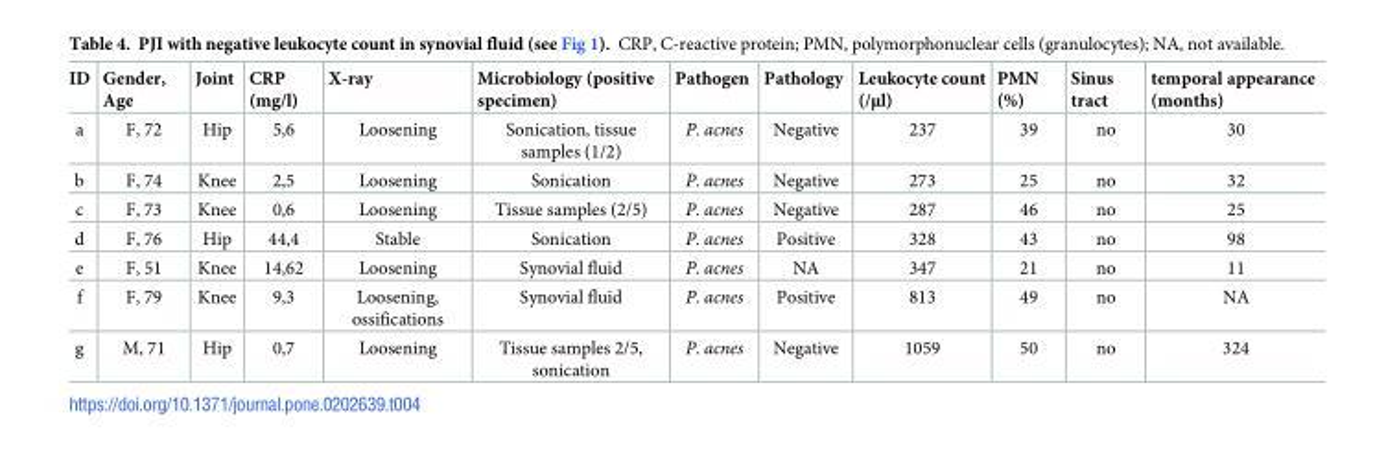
<table><thead><tr><td>ID</td><td>Gender, Age</td><td>Joint</td><td>CRP (mg/l)</td><td>X-ray</td><td>Microbiology (positive specimen)</td><td>Pathogen</td><td>Pathology</td><td>Leukocyte count (/μl)</td><td>PMN (%)</td><td>Sinus tract</td><td>temporal appearance (months)</td></tr></thead><tbody><tr><td>a</td><td>F, 72</td><td>Hip</td><td>5,6</td><td>Loosening</td><td>Sonication, tissue samples (1/2)</td><td>P. acnes</td><td>Negative</td><td>237</td><td>39</td><td>no</td><td>30</td></tr><tr><td>b</td><td>F, 74</td><td>Knee</td><td>2,5</td><td>Loosening</td><td>Sonication</td><td>P. acnes</td><td>Negative</td><td>273</td><td>25</td><td>no</td><td>32</td></tr><tr><td>c</td><td>F, 73</td><td>Knee</td><td>0,6</td><td>Loosening</td><td>Tissue samples (2/5)</td><td>P. acnes</td><td>Negative</td><td>287</td><td>46</td><td>no</td><td>25</td></tr><tr><td>d</td><td>F, 76</td><td>Hip</td><td>44,4</td><td>Stable</td><td>Sonication</td><td>P. acnes</td><td>Positive</td><td>328</td><td>43</td><td>no</td><td>98</td></tr><tr><td>e</td><td>F, 51</td><td>Knee</td><td>14,62</td><td>Loosening</td><td>Synovial fluid</td><td>P. acnes</td><td>NA</td><td>347</td><td>21</td><td>no</td><td>11</td></tr><tr><td>f</td><td>F, 79</td><td>Knee</td><td>9,3</td><td>Loosening, ossifications</td><td>Synovial fluid</td><td>P. acnes</td><td>Positive</td><td>813</td><td>49</td><td>no</td><td>NA</td></tr><tr><td>g</td><td>M, 71</td><td>Hip</td><td>0,7</td><td>Loosening</td><td>Tissue samples 2/5, sonication</td><td>P. acnes</td><td>Negative</td><td>1059</td><td>50</td><td>no</td><td>324</td></tr></tbody></table>